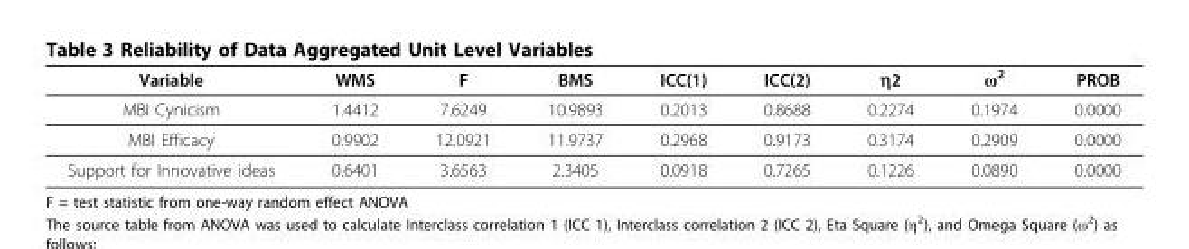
<table><thead><tr><td>Variable</td><td>WMS</td><td>F</td><td>BMS</td><td>ICC(1)</td><td>ICC(2)</td><td>η2</td><td>ω<sup>2</sup></td><td>PROB</td></tr></thead><tbody><tr><td>MBI Cynicism</td><td>1.4412</td><td>7.6249</td><td>10.9893</td><td>0.2013</td><td>0.8688</td><td>0.2274</td><td>0.1974</td><td>0.0000</td></tr><tr><td>MBI Efficacy</td><td>0.9902</td><td>12.0921</td><td>11.9737</td><td>0.2968</td><td>0.9173</td><td>0.3174</td><td>0.2909</td><td>0.0000</td></tr><tr><td>Support for Innovative ideas</td><td>0.6401</td><td>3.6563</td><td>2.3405</td><td>0.0918</td><td>0.7265</td><td>0.1226</td><td>0.0890</td><td>0.0000</td></tr></tbody></table>